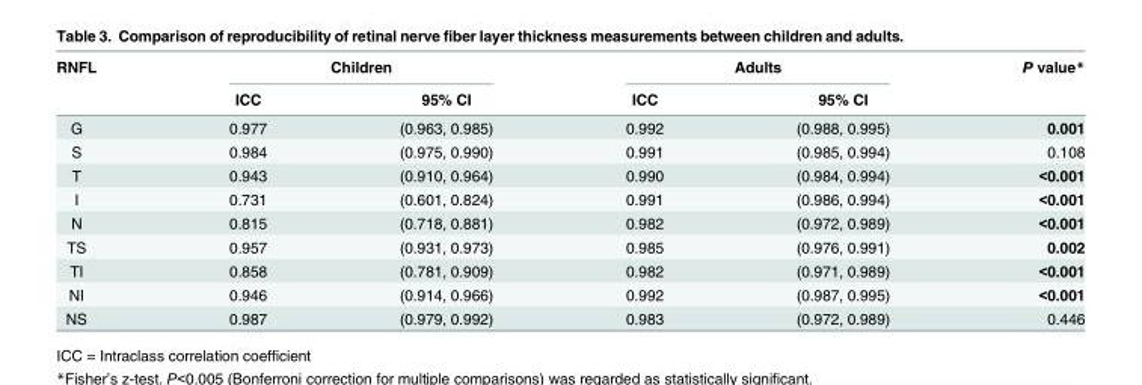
<table><thead><tr><td rowspan="2">RNFL</td><td colspan="2">Children</td><td colspan="2">Adults</td><td rowspan="2">P value*</td></tr><tr><td>ICC</td><td>95% CI</td><td>ICC</td><td>95% CI</td></tr></thead><tbody><tr><td>G</td><td>0.977</td><td>(0.963, 0.985)</td><td>0.992</td><td>(0.988, 0.995)</td><td>0.001</td></tr><tr><td>S</td><td>0.984</td><td>(0.975, 0.990)</td><td>0.991</td><td>(0.985, 0.994)</td><td>0.108</td></tr><tr><td>T</td><td>0.943</td><td>(0.910, 0.964)</td><td>0.990</td><td>(0.984, 0.994)</td><td>&lt;0.001</td></tr><tr><td>I</td><td>0.731</td><td>(0.601, 0.824)</td><td>0.991</td><td>(0.986, 0.994)</td><td>&lt;0.001</td></tr><tr><td>N</td><td>0.815</td><td>(0.718, 0.881)</td><td>0.982</td><td>(0.972, 0.989)</td><td>&lt;0.001</td></tr><tr><td>TS</td><td>0.957</td><td>(0.931, 0.973)</td><td>0.985</td><td>(0.976, 0.991)</td><td>0.002</td></tr><tr><td>TI</td><td>0.858</td><td>(0.781, 0.909)</td><td>0.982</td><td>(0.971, 0.989)</td><td>&lt;0.001</td></tr><tr><td>NI</td><td>0.946</td><td>(0.914, 0.966)</td><td>0.992</td><td>(0.987, 0.995)</td><td>&lt;0.001</td></tr><tr><td>NS</td><td>0.987</td><td>(0.979, 0.992)</td><td>0.983</td><td>(0.972, 0.989)</td><td>0.446</td></tr></tbody></table>